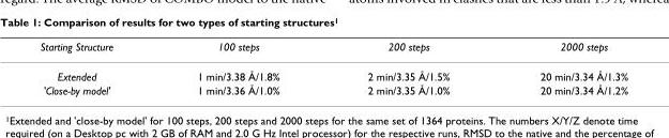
<table><thead><tr><td>Starting Structure</td><td>100 steps</td><td>200 steps</td><td>2000 steps</td></tr></thead><tbody><tr><td>Extended</td><td>1 min/3.38 Å/1.8%</td><td>2 min/3.35 Å/1.5%</td><td>20 min/3.34 Å/1.3%</td></tr><tr><td>&#x27;Close-by model&#x27;</td><td>1 min/3.36 Å/1.0%</td><td>2 min/3.35 Å/1.0%</td><td>20 min/3.34 Å/1.2%</td></tr></tbody></table>